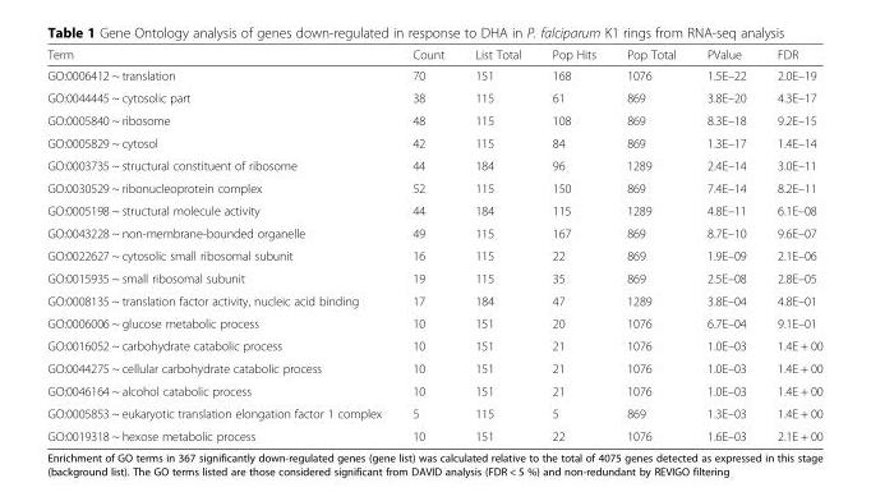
<table><thead><tr><td>Term</td><td>Count</td><td>List Total</td><td>Pop Hits</td><td>Pop Total</td><td>PValue</td><td>FDR</td></tr></thead><tbody><tr><td>GO:0006412 ~ translation</td><td>70</td><td>151</td><td>168</td><td>1076</td><td>1.5E–22</td><td>2.0E–19</td></tr><tr><td>GO:0044445 ~ cytosolic part</td><td>38</td><td>115</td><td>61</td><td>869</td><td>3.8E–20</td><td>4.3E–17</td></tr><tr><td>GO:0005840 ~ ribosome</td><td>48</td><td>115</td><td>108</td><td>869</td><td>8.3E–18</td><td>9.2E–15</td></tr><tr><td>GO:0005829 ~ cytosol</td><td>42</td><td>115</td><td>84</td><td>869</td><td>1.3E–17</td><td>1.4E–14</td></tr><tr><td>GO:0003735 ~ structural constituent of ribosome</td><td>44</td><td>184</td><td>96</td><td>1289</td><td>2.4E–14</td><td>3.0E–11</td></tr><tr><td>GO:0030529 ~ ribonucleoprotein complex</td><td>52</td><td>115</td><td>150</td><td>869</td><td>7.4E–14</td><td>8.2E–11</td></tr><tr><td>GO:0005198 ~ structural molecule activity</td><td>44</td><td>184</td><td>115</td><td>1289</td><td>4.8E–11</td><td>6.1E–08</td></tr><tr><td>GO:0043228 ~ non-membrane-bounded organelle</td><td>49</td><td>115</td><td>167</td><td>869</td><td>8.7E–10</td><td>9.6E–07</td></tr><tr><td>GO:0022627 ~ cytosolic small ribosomal subunit</td><td>16</td><td>115</td><td>22</td><td>869</td><td>1.9E–09</td><td>2.1E–06</td></tr><tr><td>GO:0015935 ~ small ribosomal subunit</td><td>19</td><td>115</td><td>35</td><td>869</td><td>2.5E–08</td><td>2.8E–05</td></tr><tr><td>GO:0008135 ~ translation factor activity, nucleic acid binding</td><td>17</td><td>184</td><td>47</td><td>1289</td><td>3.8E–04</td><td>4.8E–01</td></tr><tr><td>GO:0006006 ~ glucose metabolic process</td><td>10</td><td>151</td><td>20</td><td>1076</td><td>6.7E–04</td><td>9.1E–01</td></tr><tr><td>GO:0016052 ~ carbohydrate catabolic process</td><td>10</td><td>151</td><td>21</td><td>1076</td><td>1.0E–03</td><td>1.4E + 00</td></tr><tr><td>GO:0044275 ~ cellular carbohydrate catabolic process</td><td>10</td><td>151</td><td>21</td><td>1076</td><td>1.0E–03</td><td>1.4E + 00</td></tr><tr><td>GO:0046164 ~ alcohol catabolic process</td><td>10</td><td>151</td><td>21</td><td>1076</td><td>1.0E–03</td><td>1.4E + 00</td></tr><tr><td>GO:0005853 ~ eukaryotic translation elongation factor 1 complex</td><td>5</td><td>115</td><td>5</td><td>869</td><td>1.3E–03</td><td>1.4E + 00</td></tr><tr><td>GO:0019318 ~ hexose metabolic process</td><td>10</td><td>151</td><td>22</td><td>1076</td><td>1.6E–03</td><td>2.1E + 00</td></tr></tbody></table>